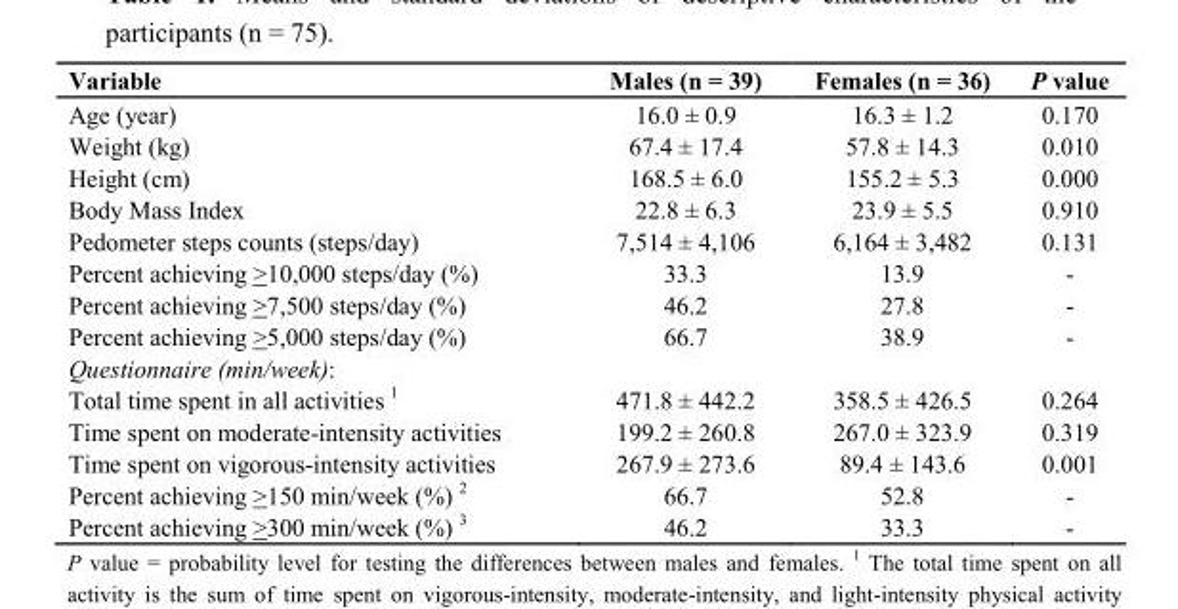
<table><thead><tr><td>Variable</td><td>Males (n = 39)</td><td>Females (n = 36)</td><td>P value</td></tr></thead><tbody><tr><td>Age (year)</td><td>16.0 ± 0.9</td><td>16.3 ± 1.2</td><td>0.170</td></tr><tr><td>Weight (kg)</td><td>67.4 ± 17.4</td><td>57.8 ± 14.3</td><td>0.010</td></tr><tr><td>Height (cm)</td><td>168.5 ± 6.0</td><td>155.2 ± 5.3</td><td>0.000</td></tr><tr><td>Body Mass Index</td><td>22.8 ± 6.3</td><td>23.9 ± 5.5</td><td>0.910</td></tr><tr><td>Pedometer steps counts (steps/day)</td><td>7,514 ± 4,106</td><td>6,164 ± 3,482</td><td>0.131</td></tr><tr><td>Percent achieving &gt;10,000 steps/day (%)</td><td>33.3</td><td>13.9</td><td>-</td></tr><tr><td>Percent achieving &gt;7,500 steps/day (%)</td><td>46.2</td><td>27.8</td><td>-</td></tr><tr><td>Percent achieving &gt;5,000 steps/day (%)</td><td>66.7</td><td>38.9</td><td>-</td></tr><tr><td colspan="4">Questionnaire (min/week):</td></tr><tr><td>Total time spent in all activities 1</td><td>471.8 ± 442.2</td><td>358.5 ± 426.5</td><td>0.264</td></tr><tr><td>Time spent on moderate-intensity activities</td><td>199.2 ± 260.8</td><td>267.0 ± 323.9</td><td>0.319</td></tr><tr><td>Time spent on vigorous-intensity activities</td><td>267.9 ± 273.6</td><td>89.4 ± 143.6</td><td>0.001</td></tr><tr><td>Percent achieving &gt;150 min/week (%) 2</td><td>66.7</td><td>52.8</td><td>-</td></tr><tr><td>Percent achieving &gt;300 min/week (%) 3</td><td>46.2</td><td>33.3</td><td>-</td></tr></tbody></table>